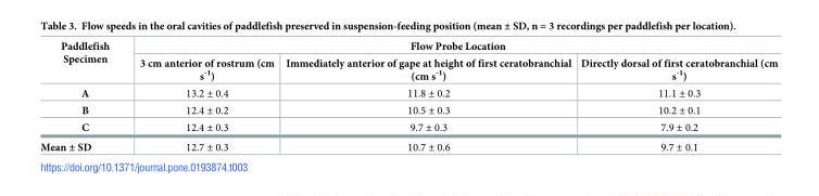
<table><thead><tr><td rowspan="2">Paddlefish Specimen</td><td colspan="3">Flow Probe Location</td></tr><tr><td>3 cm anterior of rostrum (cm s<sup>-1</sup>)</td><td>Immediately anterior of gape at height of first ceratobranchial (cm s<sup>-1</sup>)</td><td>Directly dorsal of first ceratobranchial (cm s<sup>-1</sup>)</td></tr></thead><tbody><tr><td>A</td><td>13.2 ± 0.4</td><td>11.8 ± 0.2</td><td>11.1 ± 0.3</td></tr><tr><td>B</td><td>12.4 ± 0.2</td><td>10.5 ± 0.3</td><td>10.2 ± 0.1</td></tr><tr><td>C</td><td>12.4 ± 0.3</td><td>9.7 ± 0.3</td><td>7.9 ± 0.2</td></tr><tr><td>Mean ± SD</td><td>12.7 ± 0.3</td><td>10.7 ± 0.6</td><td>9.7 ± 0.1</td></tr></tbody></table>